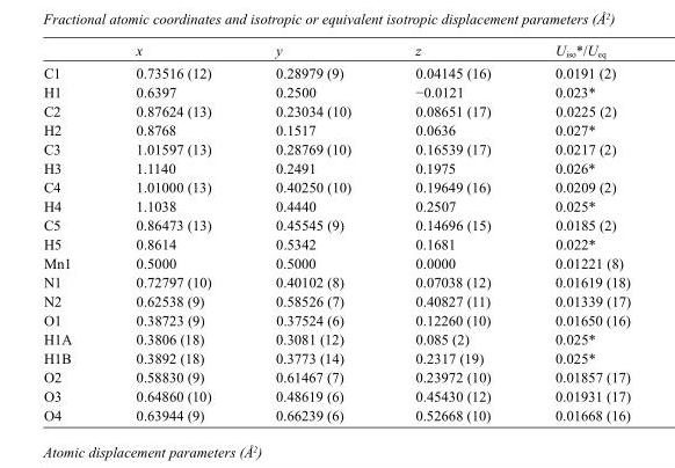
<table><thead><tr><td></td><td>x</td><td>y</td><td>z</td><td>U<sub>iso</sub>*/U<sub>eq</sub></td></tr></thead><tbody><tr><td>C1</td><td>0.73516 (12)</td><td>0.28979 (9)</td><td>0.04145 (16)</td><td>0.0191 (2)</td></tr><tr><td>H1</td><td>0.6397</td><td>0.2500</td><td>−0.0121</td><td>0.023*</td></tr><tr><td>C2</td><td>0.87624 (13)</td><td>0.23034 (10)</td><td>0.08651 (17)</td><td>0.0225 (2)</td></tr><tr><td>H2</td><td>0.8768</td><td>0.1517</td><td>0.0636</td><td>0.027*</td></tr><tr><td>C3</td><td>1.01597 (13)</td><td>0.28769 (10)</td><td>0.16539 (17)</td><td>0.0217 (2)</td></tr><tr><td>H3</td><td>1.1140</td><td>0.2491</td><td>0.1975</td><td>0.026*</td></tr><tr><td>C4</td><td>1.01000 (13)</td><td>0.40250 (10)</td><td>0.19649 (16)</td><td>0.0209 (2)</td></tr><tr><td>H4</td><td>1.1038</td><td>0.4440</td><td>0.2507</td><td>0.025*</td></tr><tr><td>C5</td><td>0.86473 (13)</td><td>0.45545 (9)</td><td>0.14696 (15)</td><td>0.0185 (2)</td></tr><tr><td>H5</td><td>0.8614</td><td>0.5342</td><td>0.1681</td><td>0.022*</td></tr><tr><td>Mn1</td><td>0.5000</td><td>0.5000</td><td>0.0000</td><td>0.01221 (8)</td></tr><tr><td>N1</td><td>0.72797 (10)</td><td>0.40102 (8)</td><td>0.07038 (12)</td><td>0.01619 (18)</td></tr><tr><td>N2</td><td>0.62538 (9)</td><td>0.58526 (7)</td><td>0.40827 (11)</td><td>0.01339 (17)</td></tr><tr><td>O1</td><td>0.38723 (9)</td><td>0.37524 (6)</td><td>0.12260 (10)</td><td>0.01650 (16)</td></tr><tr><td>H1A</td><td>0.3806 (18)</td><td>0.3081 (12)</td><td>0.085 (2)</td><td>0.025*</td></tr><tr><td>H1B</td><td>0.3892 (18)</td><td>0.3773 (14)</td><td>0.2317 (19)</td><td>0.025*</td></tr><tr><td>O2</td><td>0.58830 (9)</td><td>0.61467 (7)</td><td>0.23972 (10)</td><td>0.01857 (17)</td></tr><tr><td>O3</td><td>0.64860 (10)</td><td>0.48619 (6)</td><td>0.45430 (12)</td><td>0.01931 (17)</td></tr><tr><td>O4</td><td>0.63944 (9)</td><td>0.66239 (6)</td><td>0.52668 (10)</td><td>0.01668 (16)</td></tr></tbody></table>